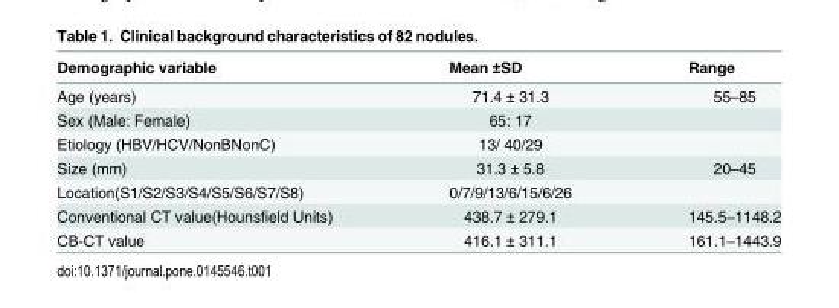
<table><thead><tr><td>Demographic variable</td><td>Mean ±SD</td><td>Range</td></tr></thead><tbody><tr><td>Age (years)</td><td>71.4 ± 31.3</td><td>55–85</td></tr><tr><td>Sex (Male: Female)</td><td>65: 17</td><td></td></tr><tr><td>Etiology (HBV/HCV/NonBNonC)</td><td>13/ 40/29</td><td></td></tr><tr><td>Size (mm)</td><td>31.3 ± 5.8</td><td>20–45</td></tr><tr><td>Location(S1/S2/S3/S4/S5/S6/S7/S8)</td><td>0/7/9/13/6/15/6/26</td><td></td></tr><tr><td>Conventional CT value(Hounsfield Units)</td><td>438.7 ± 279.1</td><td>145.5–1148.2</td></tr><tr><td>CB-CT value</td><td>416.1 ± 311.1</td><td>161.1–1443.9</td></tr></tbody></table>